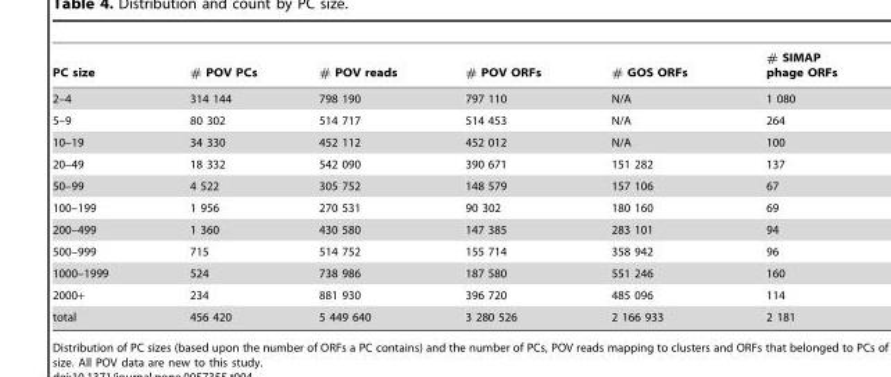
<table><thead><tr><td>PC size</td><td># POV PCs</td><td># POV reads</td><td># POV ORFs</td><td># GOS ORFs</td><td># SIMAP phage ORFs</td></tr></thead><tbody><tr><td>2–4</td><td>314 144</td><td>798 190</td><td>797 110</td><td>N/A</td><td>1 080</td></tr><tr><td>5–9</td><td>80 302</td><td>514 717</td><td>514 453</td><td>N/A</td><td>264</td></tr><tr><td>10–19</td><td>34 330</td><td>452 112</td><td>452 012</td><td>N/A</td><td>100</td></tr><tr><td>20–49</td><td>18 332</td><td>542 090</td><td>390 671</td><td>151 282</td><td>137</td></tr><tr><td>50–99</td><td>4 522</td><td>305 752</td><td>148 579</td><td>157 106</td><td>67</td></tr><tr><td>100–199</td><td>1 956</td><td>270 531</td><td>90 302</td><td>180 160</td><td>69</td></tr><tr><td>200–499</td><td>1 360</td><td>430 580</td><td>147 385</td><td>283 101</td><td>94</td></tr><tr><td>500–999</td><td>715</td><td>514 752</td><td>155 714</td><td>358 942</td><td>96</td></tr><tr><td>1000–1999</td><td>524</td><td>738 986</td><td>187 580</td><td>551 246</td><td>160</td></tr><tr><td>2000+</td><td>234</td><td>881 930</td><td>396 720</td><td>485 096</td><td>114</td></tr><tr><td>total</td><td>456 420</td><td>5 449 640</td><td>3 280 526</td><td>2 166 933</td><td>2 181</td></tr></tbody></table>